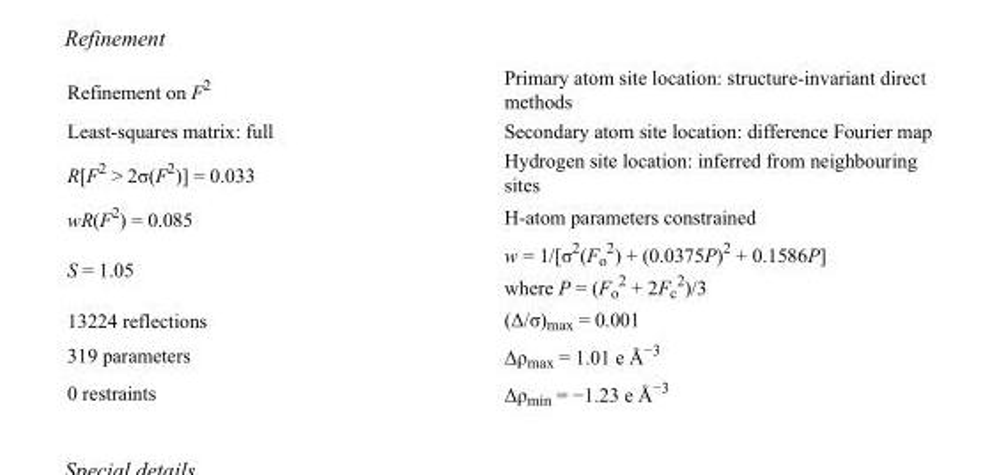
<table><tbody><tr><td>Refinement on F<sup>2</sup></td><td>Primary atom site location: structure-invariant direct methods</td></tr><tr><td>Least-squares matrix: full</td><td>Secondary atom site location: difference Fourier map</td></tr><tr><td>R[F<sup>2</sup> &gt; 2σ(F<sup>2</sup>)] = 0.033</td><td>Hydrogen site location: inferred from neighbouring sites</td></tr><tr><td>wR(F<sup>2</sup>) = 0.085</td><td>H-atom parameters constrained</td></tr><tr><td>S = 1.05</td><td>w = 1/[σ<sup>2</sup>(F<sub>o</sub> <sup>2</sup>) + (0.0375P)<sup>2</sup> + 0.1586P] where P = (F<sub>o</sub> <sup>2</sup> + 2F<sub>c</sub> <sup>2</sup>)/3</td></tr><tr><td>13224 reflections</td><td>(Δ/σ)<sub>max</sub> = 0.001</td></tr><tr><td>319 parameters</td><td>Δρ<sub>max</sub> = 1.01 e Å<sup>−3</sup></td></tr><tr><td>0 restraints</td><td>Δρ<sub>min</sub> = −1.23 e Å<sup>−3</sup></td></tr></tbody></table>